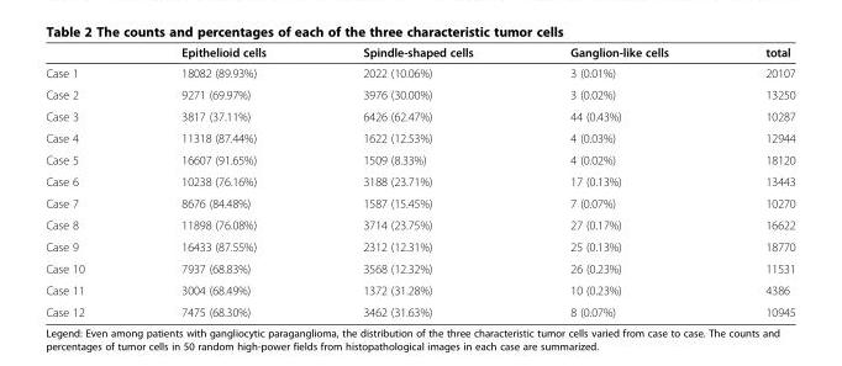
<table><thead><tr><td></td><td>Epithelioid cells</td><td>Spindle-shaped cells</td><td>Ganglion-like cells</td><td>total</td></tr></thead><tbody><tr><td>Case 1</td><td>18082 (89.93%)</td><td>2022 (10.06%)</td><td>3 (0.01%)</td><td>20107</td></tr><tr><td>Case 2</td><td>9271 (69.97%)</td><td>3976 (30.00%)</td><td>3 (0.02%)</td><td>13250</td></tr><tr><td>Case 3</td><td>3817 (37.11%)</td><td>6426 (62.47%)</td><td>44 (0.43%)</td><td>10287</td></tr><tr><td>Case 4</td><td>11318 (87.44%)</td><td>1622 (12.53%)</td><td>4 (0.03%)</td><td>12944</td></tr><tr><td>Case 5</td><td>16607 (91.65%)</td><td>1509 (8.33%)</td><td>4 (0.02%)</td><td>18120</td></tr><tr><td>Case 6</td><td>10238 (76.16%)</td><td>3188 (23.71%)</td><td>17 (0.13%)</td><td>13443</td></tr><tr><td>Case 7</td><td>8676 (84.48%)</td><td>1587 (15.45%)</td><td>7 (0.07%)</td><td>10270</td></tr><tr><td>Case 8</td><td>11898 (76.08%)</td><td>3714 (23.75%)</td><td>27 (0.17%)</td><td>16622</td></tr><tr><td>Case 9</td><td>16433 (87.55%)</td><td>2312 (12.31%)</td><td>25 (0.13%)</td><td>18770</td></tr><tr><td>Case 10</td><td>7937 (68.83%)</td><td>3568 (12.32%)</td><td>26 (0.23%)</td><td>11531</td></tr><tr><td>Case 11</td><td>3004 (68.49%)</td><td>1372 (31.28%)</td><td>10 (0.23%)</td><td>4386</td></tr><tr><td>Case 12</td><td>7475 (68.30%)</td><td>3462 (31.63%)</td><td>8 (0.07%)</td><td>10945</td></tr></tbody></table>